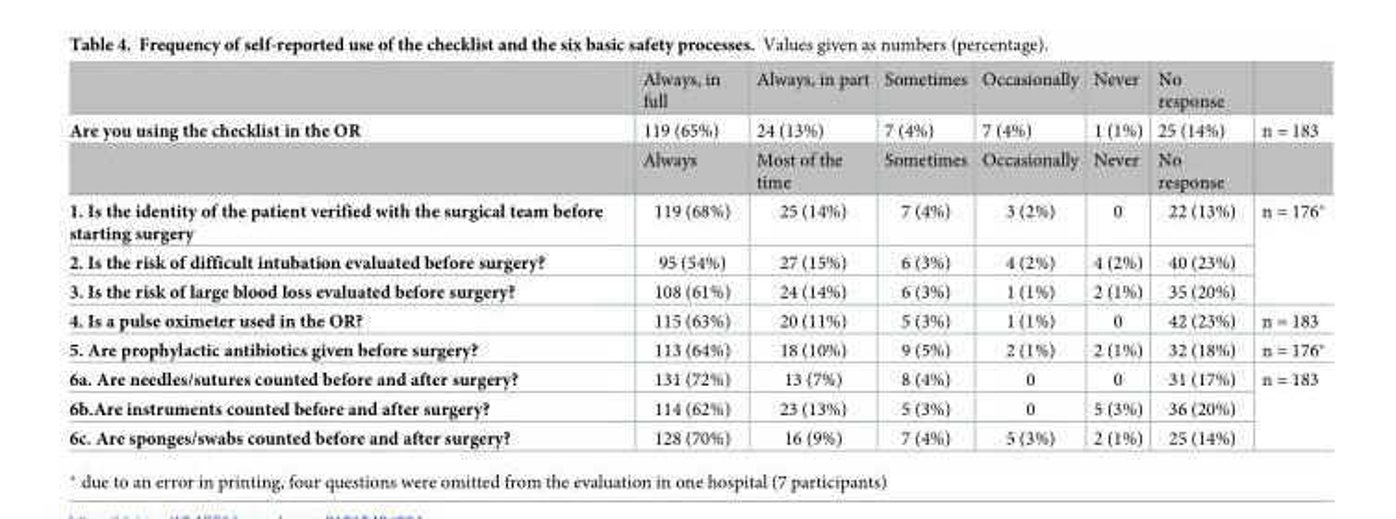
<table><thead><tr><td></td><td>Always, in full</td><td>Always, in part</td><td>Sometimes</td><td>Occasionally</td><td>Never</td><td>No response</td><td></td></tr></thead><tbody><tr><td rowspan="2">Are you using the checklist in the OR</td><td>119 (65%)</td><td>24 (13%)</td><td>7 (4%)</td><td>7 (4%)</td><td>1 (1%)</td><td>25 (14%)</td><td>n = 183</td></tr><tr><td>Always</td><td>Most of the time</td><td>Sometimes</td><td>Occasionally</td><td>Never</td><td>No response</td><td></td></tr><tr><td>1. Is the identity of the patient verified with the surgical team before starting surgery</td><td>119 (68%)</td><td>25 (14%)</td><td>7 (4%)</td><td>3 (2%)</td><td>0</td><td>22 (13%)</td><td rowspan="3">n = 176*</td></tr><tr><td>2. Is the risk of difficult intubation evaluated before surgery?</td><td>95 (54%)</td><td>27 (15%)</td><td>6 (3%)</td><td>4 (2%)</td><td>4 (2%)</td><td>40 (23%)</td></tr><tr><td>3. Is the risk of large blood loss evaluated before surgery?</td><td>108 (61%)</td><td>24 (14%)</td><td>6 (3%)</td><td>1 (1%)</td><td>2 (1%)</td><td>35 (20%)</td></tr><tr><td>4. Is a pulse oximeter used in the OR?</td><td>115 (63%)</td><td>20 (11%)</td><td>5 (3%)</td><td>1 (1%)</td><td>0</td><td>42 (23%)</td><td>n = 183</td></tr><tr><td>5. Are prophylactic antibiotics given before surgery?</td><td>113 (64%)</td><td>18 (10%)</td><td>9 (5%)</td><td>2 (1%)</td><td>2 (1%)</td><td>32 (18%)</td><td>n = 176*</td></tr><tr><td>6a. Are needles/sutures counted before and after surgery?</td><td>131 (72%)</td><td>13 (7%)</td><td>8 (4%)</td><td>0</td><td>0</td><td>31 (17%)</td><td rowspan="3">n = 183</td></tr><tr><td>6b.Are instruments counted before and after surgery?</td><td>114 (62%)</td><td>23 (13%)</td><td>5 (3%)</td><td>0</td><td>5 (3%)</td><td>36 (20%)</td></tr><tr><td>6c. Are sponges/swabs counted before and after surgery?</td><td>128 (70%)</td><td>16 (9%)</td><td>7 (4%)</td><td>5 (3%)</td><td>2 (1%)</td><td>25 (14%)</td></tr></tbody></table>